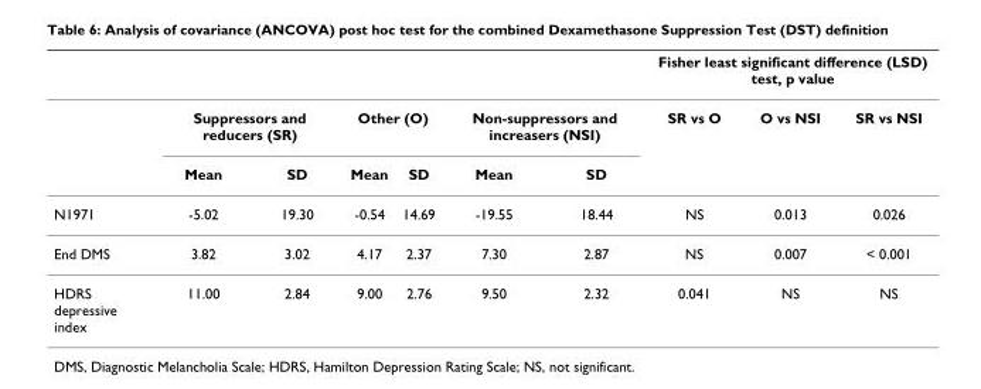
<table><thead><tr><td rowspan="2"></td><td></td><td></td><td></td><td></td><td></td><td></td><td colspan="3">Fisher least significant difference (LSD) test, p value</td></tr><tr><td colspan="2">Suppressors and reducers (SR)</td><td colspan="2">Other (O)</td><td colspan="2">Non-suppressors and increasers (NSI)</td><td>SR vs O</td><td>O vs NSI</td><td>SR vs NSI</td></tr></thead><tbody><tr><td></td><td>Mean</td><td>SD</td><td>Mean</td><td>SD</td><td>Mean</td><td>SD</td><td></td><td></td><td></td></tr><tr><td>N1971</td><td>-5.02</td><td>19.30</td><td>-0.54</td><td>14.69</td><td>-19.55</td><td>18.44</td><td>NS</td><td>0.013</td><td>0.026</td></tr><tr><td>End DMS</td><td>3.82</td><td>3.02</td><td>4.17</td><td>2.37</td><td>7.30</td><td>2.87</td><td>NS</td><td>0.007</td><td>&lt; 0.001</td></tr><tr><td>HDRS depressive index</td><td>11.00</td><td>2.84</td><td>9.00</td><td>2.76</td><td>9.50</td><td>2.32</td><td>0.041</td><td>NS</td><td>NS</td></tr></tbody></table>